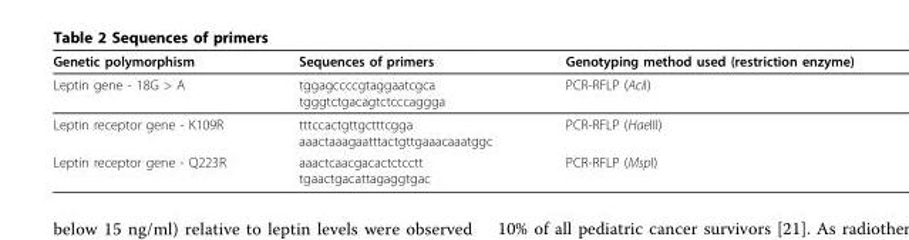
<table><thead><tr><td>Genetic polymorphism</td><td>Sequences of primers</td><td>Genotyping method used (restriction enzyme)</td></tr></thead><tbody><tr><td>Leptin gene - 18G &gt; A</td><td>tggagccccgtaggaatcgca tgggtctgacagtctcccaggga</td><td>PCR-RFLP (AciI)</td></tr><tr><td>Leptin receptor gene - K109R</td><td>tttccactgttgctttcgga aaactaaagaatttactgttgaaacaaatggc</td><td>PCR-RFLP (HaeIII)</td></tr><tr><td>Leptin receptor gene - Q223R</td><td>aaactcaacgacactctcctt tgaactgacattagaggtgac</td><td>PCR-RFLP (MspI)</td></tr></tbody></table>